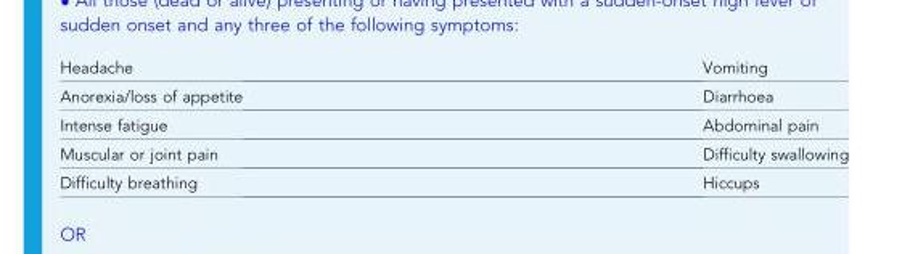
<table><tbody><tr><td>Headache</td><td>Vomiting</td></tr><tr><td>Anorexia/loss of appetite</td><td>Diarrhoea</td></tr><tr><td>Intense fatigue</td><td>Abdominal pain</td></tr><tr><td>Muscular or joint pain</td><td>Difficulty swallowing</td></tr><tr><td>Difficulty breathing</td><td>Hiccups</td></tr></tbody></table>